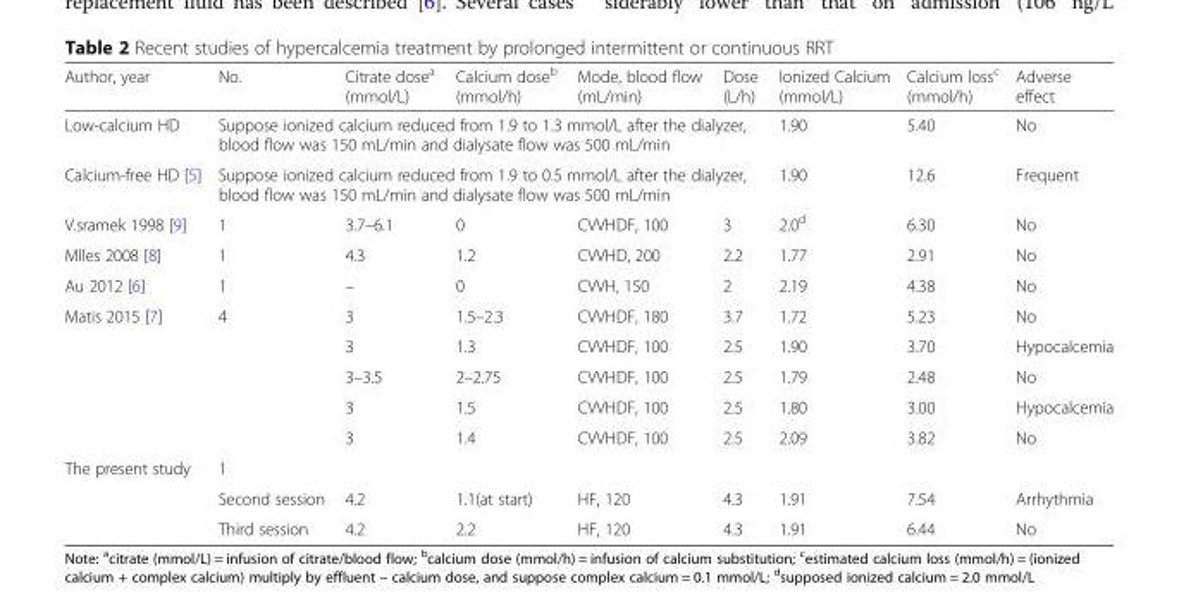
<table><thead><tr><td>Author, year</td><td>No.</td><td>Citrate dose<sup>a</sup> (mmol/L)</td><td>Calcium dose<sup>b</sup> (mmol/h)</td><td>Mode, blood flow (mL/min)</td><td>Dose (L/h)</td><td>Ionized Calcium (mmol/L)</td><td>Calcium loss<sup>c</sup> (mmol/h)</td><td>Adverse effect</td></tr></thead><tbody><tr><td>Low-calcium HD</td><td colspan="5">Suppose ionized calcium reduced from 1.9 to 1.3 mmol/L after the dialyzer, blood flow was 150 mL/min and dialysate flow was 500 mL/min</td><td>1.90</td><td>5.40</td><td>No</td></tr><tr><td>Calcium-free HD [5]</td><td colspan="5">Suppose ionized calcium reduced from 1.9 to 0.5 mmol/L after the dialyzer, blood flow was 150 mL/min and dialysate flow was 500 mL/min</td><td>1.90</td><td>12.6</td><td>Frequent</td></tr><tr><td>V.sramek 1998 [9]</td><td>1</td><td>3.7–6.1</td><td>0</td><td>CVVHDF, 100</td><td>3</td><td>2.0<sup>d</sup></td><td>6.30</td><td>No</td></tr><tr><td>Mlles 2008 [8]</td><td>1</td><td>4.3</td><td>1.2</td><td>CVVHD, 200</td><td>2.2</td><td>1.77</td><td>2.91</td><td>No</td></tr><tr><td>Au 2012 [6]</td><td>1</td><td>–</td><td>0</td><td>CVVH, 150</td><td>2</td><td>2.19</td><td>4.38</td><td>No</td></tr><tr><td rowspan="5">Matis 2015 [7]</td><td>4</td><td>3</td><td>1.5–2.3</td><td>CVVHDF, 180</td><td>3.7</td><td>1.72</td><td>5.23</td><td>No</td></tr><tr><td></td><td>3</td><td>1.3</td><td>CVVHDF, 100</td><td>2.5</td><td>1.90</td><td>3.70</td><td>Hypocalcemia</td></tr><tr><td></td><td>3–3.5</td><td>2–2.75</td><td>CVVHDF, 100</td><td>2.5</td><td>1.79</td><td>2.48</td><td>No</td></tr><tr><td></td><td>3</td><td>1.5</td><td>CVVHDF, 100</td><td>2.5</td><td>1.80</td><td>3.00</td><td>Hypocalcemia</td></tr><tr><td></td><td>3</td><td>1.4</td><td>CVVHDF, 100</td><td>2.5</td><td>2.09</td><td>3.82</td><td>No</td></tr><tr><td rowspan="3">The present study</td><td>1</td><td></td><td></td><td></td><td></td><td></td><td></td><td></td></tr><tr><td>Second session</td><td>4.2</td><td>1.1(at start)</td><td>HF, 120</td><td>4.3</td><td>1.91</td><td>7.54</td><td>Arrhythmia</td></tr><tr><td>Third session</td><td>4.2</td><td>2.2</td><td>HF, 120</td><td>4.3</td><td>1.91</td><td>6.44</td><td>No</td></tr></tbody></table>